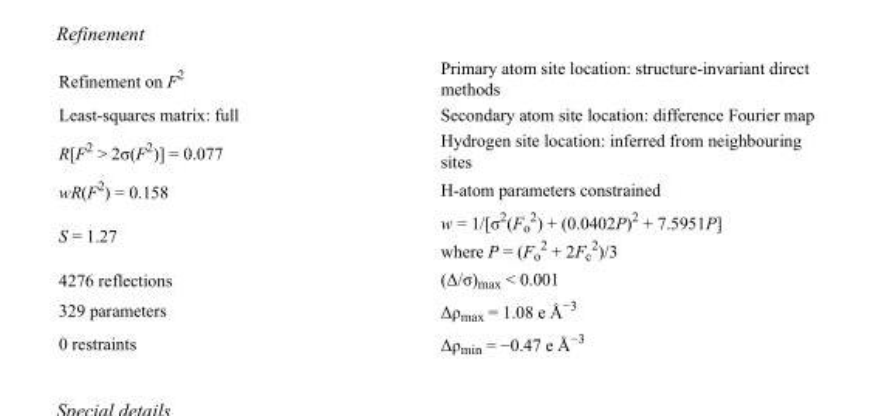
<table><tbody><tr><td>Refinement on F<sup>2</sup></td><td>Primary atom site location: structure-invariant direct methods</td></tr><tr><td>Least-squares matrix: full</td><td>Secondary atom site location: difference Fourier map</td></tr><tr><td>R[F<sup>2</sup> &gt; 2σ(F<sup>2</sup>)] = 0.077</td><td>Hydrogen site location: inferred from neighbouring sites</td></tr><tr><td>wR(F<sup>2</sup>) = 0.158</td><td>H-atom parameters constrained</td></tr><tr><td>S = 1.27</td><td>w = 1/[σ<sup>2</sup>(F<sub>o</sub> <sup>2</sup>) + (0.0402P)<sup>2</sup> + 7.5951P] where P = (F<sub>o</sub> <sup>2</sup> + 2F<sub>c</sub> <sup>2</sup>)/3</td></tr><tr><td>4276 reflections</td><td>(Δ/σ)<sub>max</sub> &lt; 0.001</td></tr><tr><td>329 parameters</td><td>Δρ<sub>max</sub> = 1.08 e Å<sup>−3</sup></td></tr><tr><td>0 restraints</td><td>Δρ<sub>min</sub> = −0.47 e Å<sup>−3</sup></td></tr></tbody></table>